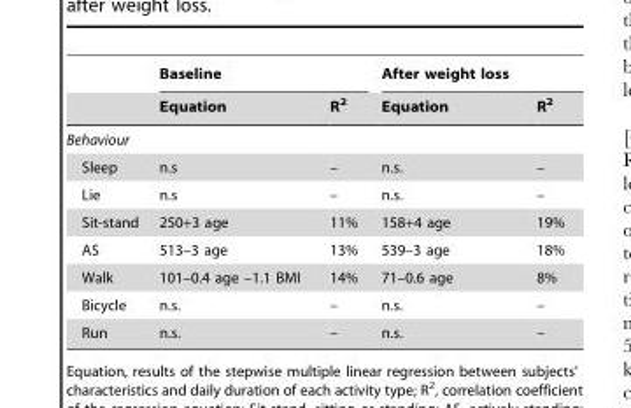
<table><thead><tr><td rowspan="2"></td><td colspan="2">Baseline</td><td colspan="2">After weight loss</td></tr><tr><td>Equation</td><td>R<sup>2</sup></td><td>Equation</td><td>R<sup>2</sup></td></tr></thead><tbody><tr><td colspan="5">Behaviour</td></tr><tr><td>Sleep</td><td>n.s</td><td>–</td><td>n.s.</td><td>–</td></tr><tr><td>Lie</td><td>n.s</td><td>–</td><td>n.s.</td><td>–</td></tr><tr><td>Sit-stand</td><td>250+3 age</td><td>11%</td><td>158+4 age</td><td>19%</td></tr><tr><td>AS</td><td>513–3 age</td><td>13%</td><td>539–3 age</td><td>18%</td></tr><tr><td>Walk</td><td>101–0.4 age –1.1 BMI</td><td>14%</td><td>71–0.6 age</td><td>8%</td></tr><tr><td>Bicycle</td><td>n.s.</td><td>–</td><td>n.s.</td><td>–</td></tr><tr><td>Run</td><td>n.s.</td><td>–</td><td>n.s.</td><td>–</td></tr></tbody></table>